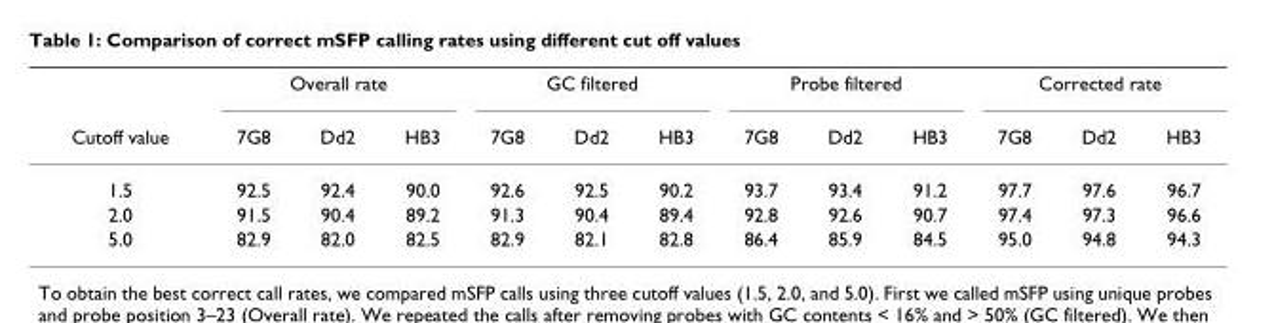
<table><thead><tr><td rowspan="2">Cutoff value</td><td colspan="3">Overall rate</td><td colspan="3">GC filtered</td><td colspan="3">Probe filtered</td><td colspan="3">Corrected rate</td></tr><tr><td>7G8</td><td>Dd2</td><td>HB3</td><td>7G8</td><td>Dd2</td><td>HB3</td><td>7G8</td><td>Dd2</td><td>HB3</td><td>7G8</td><td>Dd2</td><td>HB3</td></tr></thead><tbody><tr><td>1.5</td><td>92.5</td><td>92.4</td><td>90.0</td><td>92.6</td><td>92.5</td><td>90.2</td><td>93.7</td><td>93.4</td><td>91.2</td><td>97.7</td><td>97.6</td><td>96.7</td></tr><tr><td>2.0</td><td>91.5</td><td>90.4</td><td>89.2</td><td>91.3</td><td>90.4</td><td>89.4</td><td>92.8</td><td>92.6</td><td>90.7</td><td>97.4</td><td>97.3</td><td>96.6</td></tr><tr><td>5.0</td><td>82.9</td><td>82.0</td><td>82.5</td><td>82.9</td><td>82.1</td><td>82.8</td><td>86.4</td><td>85.9</td><td>84.5</td><td>95.0</td><td>94.8</td><td>94.3</td></tr></tbody></table>